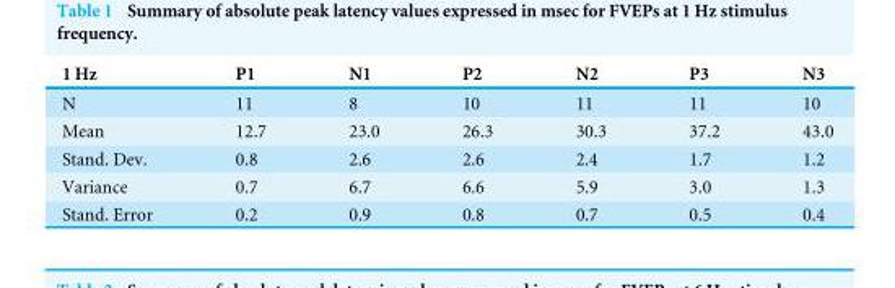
<table><thead><tr><td>1 Hz</td><td>P1</td><td>N1</td><td>P2</td><td>N2</td><td>P3</td><td>N3</td></tr></thead><tbody><tr><td>N</td><td>11</td><td>8</td><td>10</td><td>11</td><td>11</td><td>10</td></tr><tr><td>Mean</td><td>12.7</td><td>23.0</td><td>26.3</td><td>30.3</td><td>37.2</td><td>43.0</td></tr><tr><td>Stand. Dev.</td><td>0.8</td><td>2.6</td><td>2.6</td><td>2.4</td><td>1.7</td><td>1.2</td></tr><tr><td>Variance</td><td>0.7</td><td>6.7</td><td>6.6</td><td>5.9</td><td>3.0</td><td>1.3</td></tr><tr><td>Stand. Error</td><td>0.2</td><td>0.9</td><td>0.8</td><td>0.7</td><td>0.5</td><td>0.4</td></tr></tbody></table>